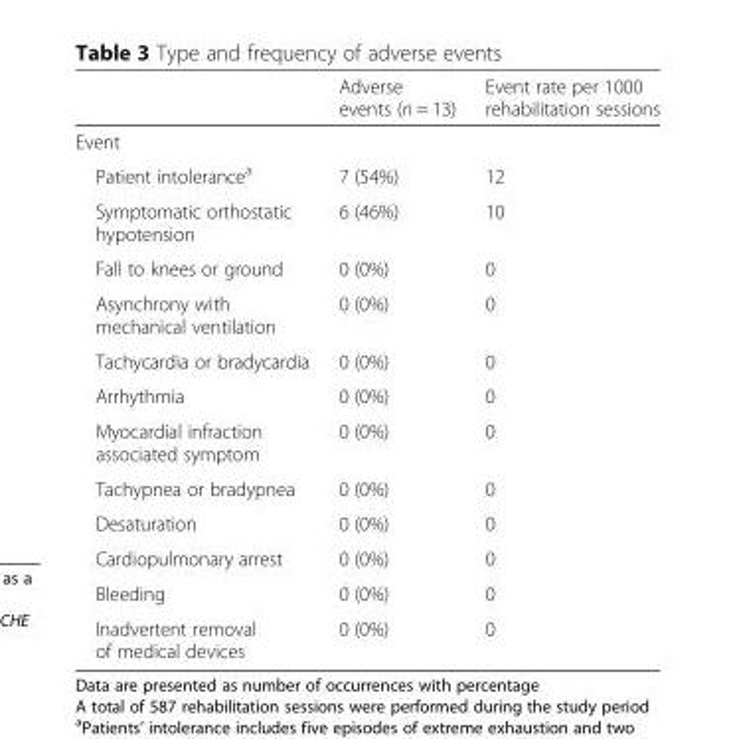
<table><thead><tr><td></td><td>Adverse events (n = 13)</td><td>Event rate per 1000 rehabilitation sessions</td></tr></thead><tbody><tr><td colspan="3">Event</td></tr><tr><td>Patient intolerance<sup>a</sup></td><td>7 (54%)</td><td>12</td></tr><tr><td>Symptomatic orthostatic hypotension</td><td>6 (46%)</td><td>10</td></tr><tr><td>Fall to knees or ground</td><td>0 (0%)</td><td>0</td></tr><tr><td>Asynchrony with mechanical ventilation</td><td>0 (0%)</td><td>0</td></tr><tr><td>Tachycardia or bradycardia</td><td>0 (0%)</td><td>0</td></tr><tr><td>Arrhythmia</td><td>0 (0%)</td><td>0</td></tr><tr><td>Myocardial infraction associated symptom</td><td>0 (0%)</td><td>0</td></tr><tr><td>Tachypnea or bradypnea</td><td>0 (0%)</td><td>0</td></tr><tr><td>Desaturation</td><td>0 (0%)</td><td>0</td></tr><tr><td>Cardiopulmonary arrest</td><td>0 (0%)</td><td>0</td></tr><tr><td>Bleeding</td><td>0 (0%)</td><td>0</td></tr><tr><td>Inadvertent removal of medical devices</td><td>0 (0%)</td><td>0</td></tr></tbody></table>